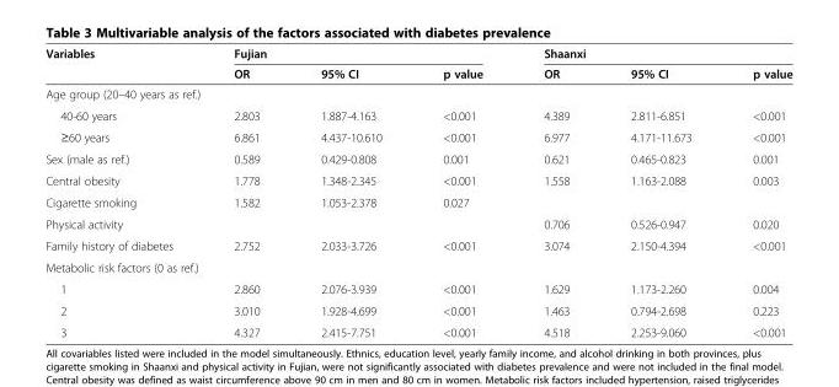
<table><thead><tr><td rowspan="2">Variables</td><td colspan="3">Fujian</td><td colspan="3">Shaanxi</td></tr><tr><td>OR</td><td>95% CI</td><td>p value</td><td>OR</td><td>95% CI</td><td>p value</td></tr></thead><tbody><tr><td colspan="7">Age group (20–40 years as ref.)</td></tr><tr><td>40-60 years</td><td>2.803</td><td>1.887-4.163</td><td>&lt;0.001</td><td>4.389</td><td>2.811-6.851</td><td>&lt;0.001</td></tr><tr><td>≥60 years</td><td>6.861</td><td>4.437-10.610</td><td>&lt;0.001</td><td>6.977</td><td>4.171-11.673</td><td>&lt;0.001</td></tr><tr><td>Sex (male as ref.)</td><td>0.589</td><td>0.429-0.808</td><td>0.001</td><td>0.621</td><td>0.465-0.823</td><td>0.001</td></tr><tr><td>Central obesity</td><td>1.778</td><td>1.348-2.345</td><td>&lt;0.001</td><td>1.558</td><td>1.163-2.088</td><td>0.003</td></tr><tr><td>Cigarette smoking</td><td>1.582</td><td>1.053-2.378</td><td>0.027</td><td></td><td></td><td></td></tr><tr><td>Physical activity</td><td></td><td></td><td></td><td>0.706</td><td>0.526-0.947</td><td>0.020</td></tr><tr><td>Family history of diabetes</td><td>2.752</td><td>2.033-3.726</td><td>&lt;0.001</td><td>3.074</td><td>2.150-4.394</td><td>&lt;0.001</td></tr><tr><td colspan="7">Metabolic risk factors (0 as ref.)</td></tr><tr><td>1</td><td>2.860</td><td>2.076-3.939</td><td>&lt;0.001</td><td>1.629</td><td>1.173-2.260</td><td>0.004</td></tr><tr><td>2</td><td>3.010</td><td>1.928-4.699</td><td>&lt;0.001</td><td>1.463</td><td>0.794-2.698</td><td>0.223</td></tr><tr><td>3</td><td>4.327</td><td>2.415-7.751</td><td>&lt;0.001</td><td>4.518</td><td>2.253-9.060</td><td>&lt;0.001</td></tr></tbody></table>